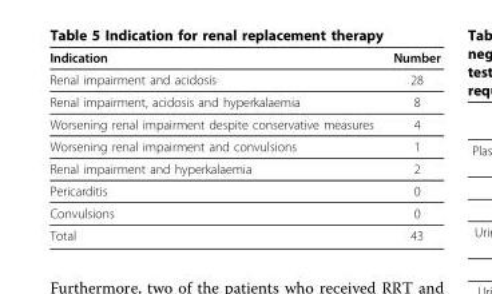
<table><thead><tr><td>Indication</td><td>Number</td></tr></thead><tbody><tr><td>Renal impairment and acidosis</td><td>28</td></tr><tr><td>Renal impairment, acidosis and hyperkalaemia</td><td>8</td></tr><tr><td>Worsening renal impairment despite conservative measures</td><td>4</td></tr><tr><td>Worsening renal impairment and convulsions</td><td>1</td></tr><tr><td>Renal impairment and hyperkalaemia</td><td>2</td></tr><tr><td>Pericarditis</td><td>0</td></tr><tr><td>Convulsions</td><td>0</td></tr><tr><td>Total</td><td>43</td></tr></tbody></table>